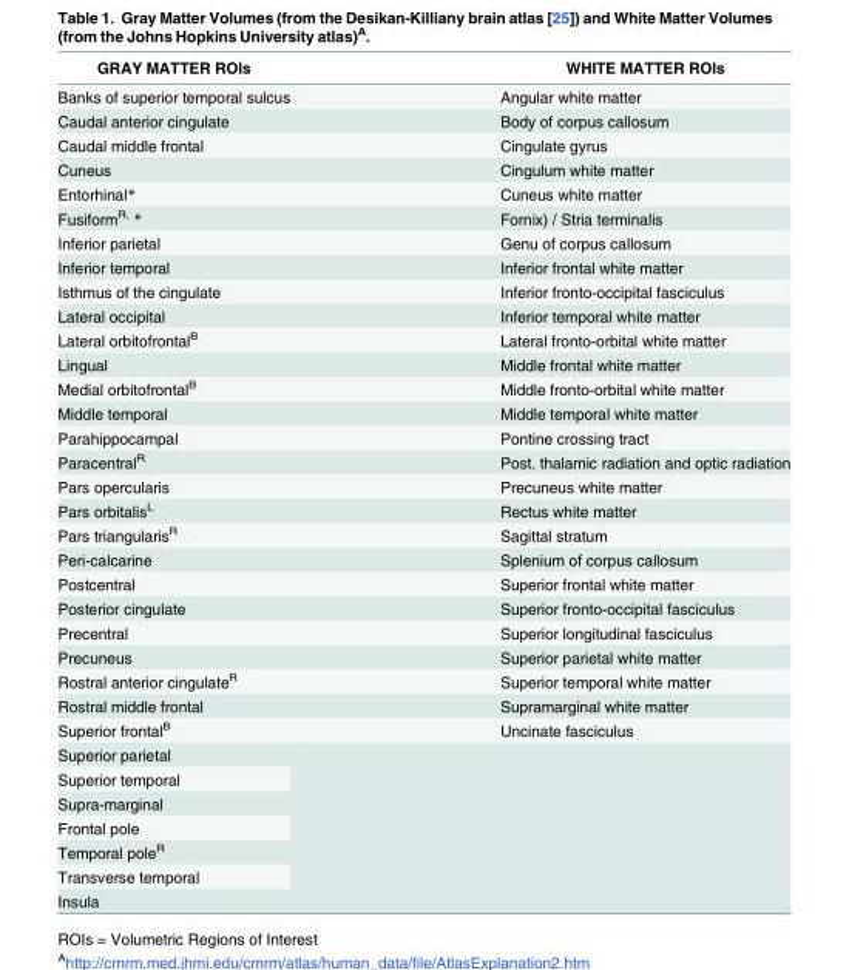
<table><thead><tr><td>GRAY MATTER ROIs</td><td>WHITE MATTER ROIs</td></tr></thead><tbody><tr><td>Banks of superior temporal sulcus</td><td>Angular white matter</td></tr><tr><td>Caudal anterior cingulate</td><td>Body of corpus callosum</td></tr><tr><td>Caudal middle frontal</td><td>Cingulate gyrus</td></tr><tr><td>Cuneus</td><td>Cingulum white matter</td></tr><tr><td>Entorhinal*</td><td>Cuneus white matter</td></tr><tr><td>Fusiform<sup>R,</sup> *</td><td>Fornix) / Stria terminalis</td></tr><tr><td>Inferior parietal</td><td>Genu of corpus callosum</td></tr><tr><td>Inferior temporal</td><td>Inferior frontal white matter</td></tr><tr><td>Isthmus of the cingulate</td><td>Inferior fronto-occipital fasciculus</td></tr><tr><td>Lateral occipital</td><td>Inferior temporal white matter</td></tr><tr><td>Lateral orbitofrontal<sup>B</sup></td><td>Lateral fronto-orbital white matter</td></tr><tr><td>Lingual</td><td>Middle frontal white matter</td></tr><tr><td>Medial orbitofrontal<sup>B</sup></td><td>Middle fronto-orbital white matter</td></tr><tr><td>Middle temporal</td><td>Middle temporal white matter</td></tr><tr><td>Parahippocampal</td><td>Pontine crossing tract</td></tr><tr><td>Paracentral<sup>R</sup></td><td>Post. thalamic radiation and optic radiation</td></tr><tr><td>Pars opercularis</td><td>Precuneus white matter</td></tr><tr><td>Pars orbitalis<sup>L</sup></td><td>Rectus white matter</td></tr><tr><td>Pars triangularis<sup>R</sup></td><td>Sagittal stratum</td></tr><tr><td>Peri-calcarine</td><td>Splenium of corpus callosum</td></tr><tr><td>Postcentral</td><td>Superior frontal white matter</td></tr><tr><td>Posterior cingulate</td><td>Superior fronto-occipital fasciculus</td></tr><tr><td>Precentral</td><td>Superior longitudinal fasciculus</td></tr><tr><td>Precuneus</td><td>Superior parietal white matter</td></tr><tr><td>Rostral anterior cingulate<sup>R</sup></td><td>Superior temporal white matter</td></tr><tr><td>Rostral middle frontal</td><td>Supramarginal white matter</td></tr><tr><td>Superior frontal<sup>B</sup></td><td>Uncinate fasciculus</td></tr><tr><td>Superior parietal</td><td rowspan="7"></td></tr><tr><td>Superior temporal</td></tr><tr><td>Supra-marginal</td></tr><tr><td>Frontal pole</td></tr><tr><td>Temporal pole<sup>R</sup></td></tr><tr><td>Transverse temporal</td></tr><tr><td>Insula</td></tr></tbody></table>